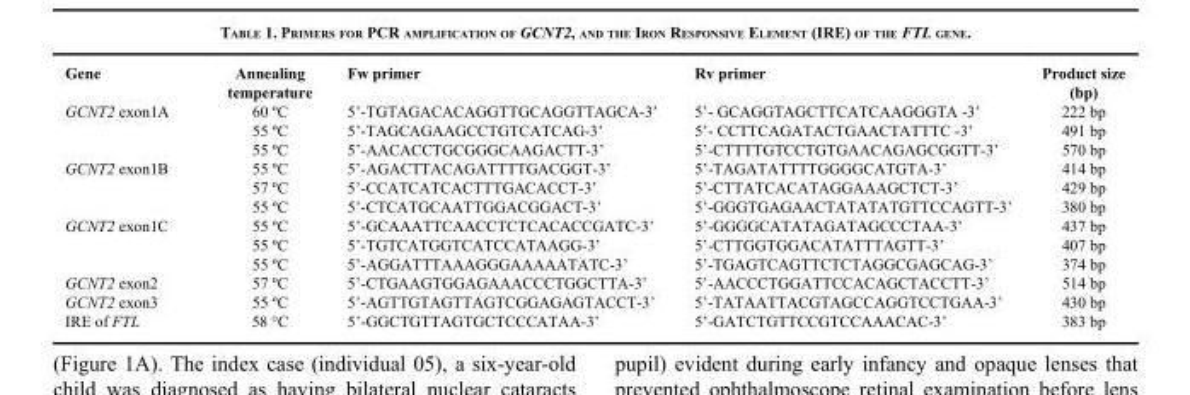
<table><thead><tr><td>Gene</td><td>Annealing temperature</td><td>Fw primer</td><td>Rv primer</td><td>Product size (bp)</td></tr></thead><tbody><tr><td rowspan="3">GCNT2 exon1A</td><td>60 ºC</td><td>5’-TGTAGACACAGGTTGCAGGTTAGCA-3’</td><td>5’- GCAGGTAGCTTCATCAAGGGTA -3’</td><td>222 bp</td></tr><tr><td>55 ºC</td><td>5’-TAGCAGAAGCCTGTCATCAG-3’</td><td>5’- CCTTCAGATACTGAACTATTTC -3’</td><td>491 bp</td></tr><tr><td>55 ºC</td><td>5’-AACACCTGCGGGCAAGACTT-3’</td><td>5’-CTTTTGTCCTGTGAACAGAGCGGTT-3’</td><td>570 bp</td></tr><tr><td rowspan="3">GCNT2 exon1B</td><td>55 ºC</td><td>5’-AGACTTACAGATTTTGACGGT-3’</td><td>5’-TAGATATTTTGGGGCATGTA-3’</td><td>414 bp</td></tr><tr><td>57 ºC</td><td>5’-CCATCATCACTTTGACACCT-3’</td><td>5’-CTTATCACATAGGAAAGCTCT-3’</td><td>429 bp</td></tr><tr><td>55 ºC</td><td>5’-CTCATGCAATTGGACGGACT-3’</td><td>5’-GGGTGAGAACTATATATGTTCCAGTT-3’</td><td>380 bp</td></tr><tr><td rowspan="3">GCNT2 exon1C</td><td>55 ºC</td><td>5’-GCAAATTCAACCTCTCACACCGATC-3’</td><td>5’-GGGGCATATAGATAGCCCTAA-3’</td><td>437 bp</td></tr><tr><td>55 ºC</td><td>5’-TGTCATGGTCATCCATAAGG-3’</td><td>5’-CTTGGTGGACATATTTAGTT-3’</td><td>407 bp</td></tr><tr><td>55 ºC</td><td>5’-AGGATTTAAAGGGAAAAATATC-3’</td><td>5’-TGAGTCAGTTCTCTAGGCGAGCAG-3’</td><td>374 bp</td></tr><tr><td>GCNT2 exon2</td><td>57 ºC</td><td>5’-CTGAAGTGGAGAAACCCTGGCTTA-3’</td><td>5’-AACCCTGGATTCCACAGCTACCTT-3’</td><td>514 bp</td></tr><tr><td>GCNT2 exon3</td><td>55 ºC</td><td>5’-AGTTGTAGTTAGTCGGAGAGTACCT-3’</td><td>5’-TATAATTACGTAGCCAGGTCCTGAA-3’</td><td>430 bp</td></tr><tr><td>IRE of FTL</td><td>58 °C</td><td>5’-GGCTGTTAGTGCTCCCATAA-3’</td><td>5’-GATCTGTTCCGTCCAAACAC-3’</td><td>383 bp</td></tr></tbody></table>